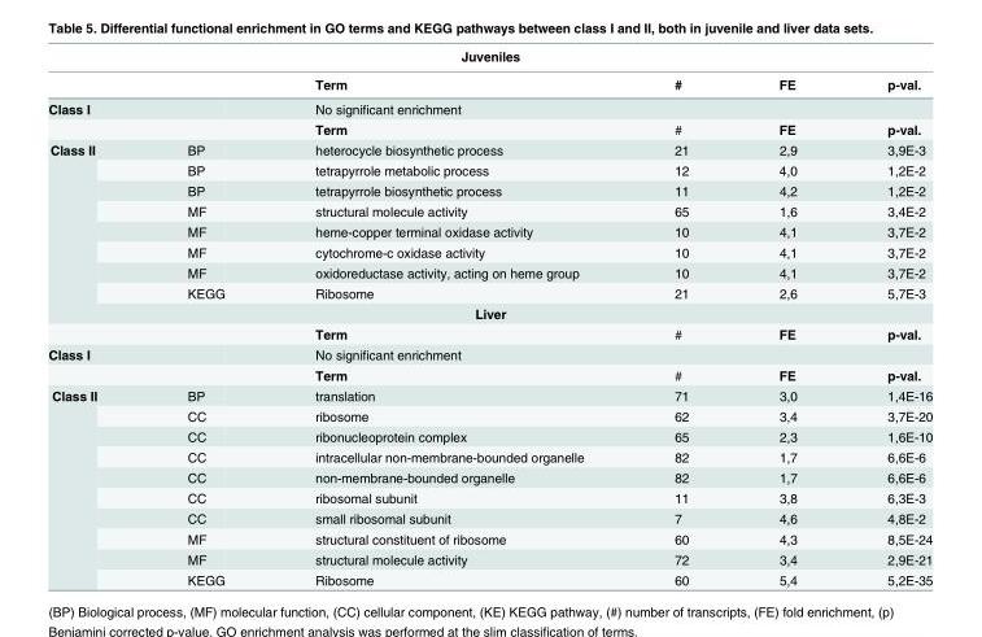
<table><thead><tr><td colspan="6">Juveniles</td></tr><tr><td></td><td></td><td>Term</td><td>#</td><td>FE</td><td>p-val.</td></tr></thead><tbody><tr><td rowspan="2">Class I</td><td></td><td>No significant enrichment</td><td></td><td></td><td></td></tr><tr><td></td><td>Term</td><td>#</td><td>FE</td><td>p-val.</td></tr><tr><td rowspan="8">Class II</td><td>BP</td><td>heterocycle biosynthetic process</td><td>21</td><td>2,9</td><td>3,9E-3</td></tr><tr><td>BP</td><td>tetrapyrrole metabolic process</td><td>12</td><td>4,0</td><td>1,2E-2</td></tr><tr><td>BP</td><td>tetrapyrrole biosynthetic process</td><td>11</td><td>4,2</td><td>1,2E-2</td></tr><tr><td>MF</td><td>structural molecule activity</td><td>65</td><td>1,6</td><td>3,4E-2</td></tr><tr><td>MF</td><td>heme-copper terminal oxidase activity</td><td>10</td><td>4,1</td><td>3,7E-2</td></tr><tr><td>MF</td><td>cytochrome-c oxidase activity</td><td>10</td><td>4,1</td><td>3,7E-2</td></tr><tr><td>MF</td><td>oxidoreductase activity, acting on heme group</td><td>10</td><td>4,1</td><td>3,7E-2</td></tr><tr><td>KEGG</td><td>Ribosome</td><td>21</td><td>2,6</td><td>5,7E-3</td></tr><tr><td colspan="6">Liver</td></tr><tr><td></td><td></td><td>Term</td><td>#</td><td>FE</td><td>p-val.</td></tr><tr><td rowspan="2">Class I</td><td></td><td>No significant enrichment</td><td></td><td></td><td></td></tr><tr><td></td><td>Term</td><td>#</td><td>FE</td><td>p-val.</td></tr><tr><td rowspan="10">Class II</td><td>BP</td><td>translation</td><td>71</td><td>3,0</td><td>1,4E-16</td></tr><tr><td>CC</td><td>ribosome</td><td>62</td><td>3,4</td><td>3,7E-20</td></tr><tr><td>CC</td><td>ribonucleoprotein complex</td><td>65</td><td>2,3</td><td>1,6E-10</td></tr><tr><td>CC</td><td>intracellular non-membrane-bounded organelle</td><td>82</td><td>1,7</td><td>6,6E-6</td></tr><tr><td>CC</td><td>non-membrane-bounded organelle</td><td>82</td><td>1,7</td><td>6,6E-6</td></tr><tr><td>CC</td><td>ribosomal subunit</td><td>11</td><td>3,8</td><td>6,3E-3</td></tr><tr><td>CC</td><td>small ribosomal subunit</td><td>7</td><td>4,6</td><td>4,8E-2</td></tr><tr><td>MF</td><td>structural constituent of ribosome</td><td>60</td><td>4,3</td><td>8,5E-24</td></tr><tr><td>MF</td><td>structural molecule activity</td><td>72</td><td>3,4</td><td>2,9E-21</td></tr><tr><td>KEGG</td><td>Ribosome</td><td>60</td><td>5,4</td><td>5,2E-35</td></tr></tbody></table>